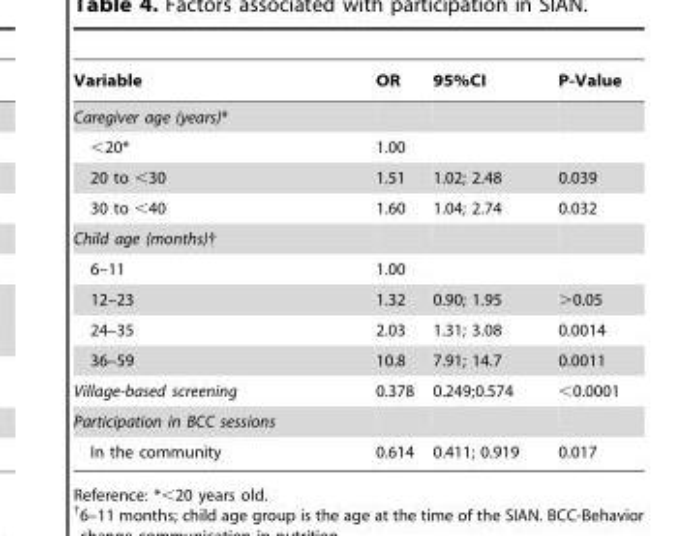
<table><thead><tr><td>Variable</td><td>OR</td><td>95%CI</td><td>P-Value</td></tr></thead><tbody><tr><td colspan="4">Caregiver age (years)*</td></tr><tr><td>&lt;20*</td><td>1.00</td><td></td><td></td></tr><tr><td>20 to &lt;30</td><td>1.51</td><td>1.02; 2.48</td><td>0.039</td></tr><tr><td>30 to &lt;40</td><td>1.60</td><td>1.04; 2.74</td><td>0.032</td></tr><tr><td colspan="4">Child age (months)†</td></tr><tr><td>6–11</td><td>1.00</td><td></td><td></td></tr><tr><td>12–23</td><td>1.32</td><td>0.90; 1.95</td><td>&gt;0.05</td></tr><tr><td>24–35</td><td>2.03</td><td>1.31; 3.08</td><td>0.0014</td></tr><tr><td>36–59</td><td>10.8</td><td>7.91; 14.7</td><td>0.0011</td></tr><tr><td>Village-based screening</td><td>0.378</td><td>0.249;0.574</td><td>&lt;0.0001</td></tr><tr><td colspan="4">Participation in BCC sessions</td></tr><tr><td>In the community</td><td>0.614</td><td>0.411; 0.919</td><td>0.017</td></tr></tbody></table>